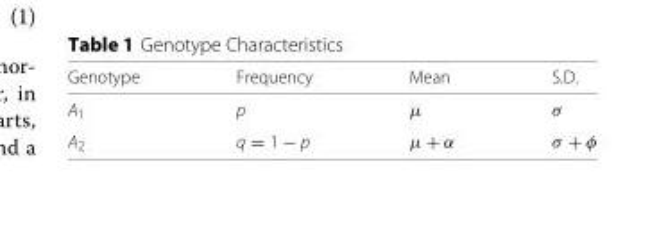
<table><thead><tr><td>Genotype</td><td>Frequency</td><td>Mean</td><td>S.D.</td></tr></thead><tbody><tr><td>A<sub>1</sub></td><td>p</td><td>μ</td><td>σ</td></tr><tr><td>A<sub>2</sub></td><td>q = 1 − p</td><td>μ + α</td><td>σ +</td></tr></tbody></table>